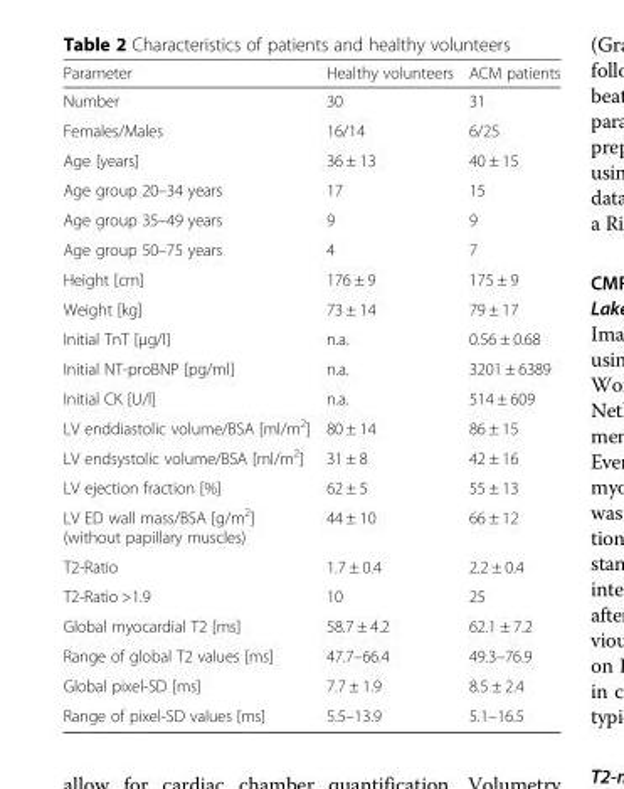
<table><thead><tr><td>Parameter</td><td>Healthy volunteers</td><td>ACM patients</td></tr></thead><tbody><tr><td>Number</td><td>30</td><td>31</td></tr><tr><td>Females/Males</td><td>16/14</td><td>6/25</td></tr><tr><td>Age [years]</td><td>36 ± 13</td><td>40 ± 15</td></tr><tr><td>Age group 20–34 years</td><td>17</td><td>15</td></tr><tr><td>Age group 35–49 years</td><td>9</td><td>9</td></tr><tr><td>Age group 50–75 years</td><td>4</td><td>7</td></tr><tr><td>Height [cm]</td><td>176 ± 9</td><td>175 ± 9</td></tr><tr><td>Weight [kg]</td><td>73 ± 14</td><td>79 ± 17</td></tr><tr><td>Initial TnT [μg/l]</td><td>n.a.</td><td>0.56 ± 0.68</td></tr><tr><td>Initial NT-proBNP [pg/ml]</td><td>n.a.</td><td>3201 ± 6389</td></tr><tr><td>Initial CK [U/l]</td><td>n.a.</td><td>514 ± 609</td></tr><tr><td>LV enddiastolic volume/BSA [ml/m<sup>2</sup>]</td><td>80 ± 14</td><td>86 ± 15</td></tr><tr><td>LV endsystolic volume/BSA [ml/m<sup>2</sup>]</td><td>31 ± 8</td><td>42 ± 16</td></tr><tr><td>LV ejection fraction [%]</td><td>62 ± 5</td><td>55 ± 13</td></tr><tr><td>LV ED wall mass/BSA [g/m<sup>2</sup>] (without papillary muscles)</td><td>44 ± 10</td><td>66 ± 12</td></tr><tr><td>T2-Ratio</td><td>1.7 ± 0.4</td><td>2.2 ± 0.4</td></tr><tr><td>T2-Ratio &gt;1.9</td><td>10</td><td>25</td></tr><tr><td>Global myocardial T2 [ms]</td><td>58.7 ± 4.2</td><td>62.1 ± 7.2</td></tr><tr><td>Range of global T2 values [ms]</td><td>47.7–66.4</td><td>49.3–76.9</td></tr><tr><td>Global pixel-SD [ms]</td><td>7.7 ± 1.9</td><td>8.5 ± 2.4</td></tr><tr><td>Range of pixel-SD values [ms]</td><td>5.5–13.9</td><td>5.1–16.5</td></tr></tbody></table>